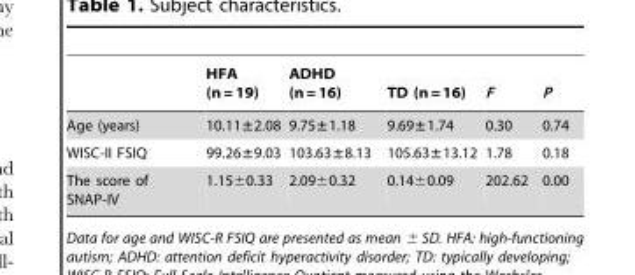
<table><thead><tr><td></td><td>HFA (n = 19)</td><td>ADHD (n = 16)</td><td>TD (n = 16)</td><td>F</td><td>P</td></tr></thead><tbody><tr><td>Age (years)</td><td>10.11±2.08</td><td>9.75±1.18</td><td>9.69±1.74</td><td>0.30</td><td>0.74</td></tr><tr><td>WISC-II FSIQ</td><td>99.26±9.03</td><td>103.63±8.13</td><td>105.63±13.12</td><td>1.78</td><td>0.18</td></tr><tr><td>The score of SNAP-IV</td><td>1.15±0.33</td><td>2.09±0.32</td><td>0.14±0.09</td><td>202.62</td><td>0.00</td></tr></tbody></table>